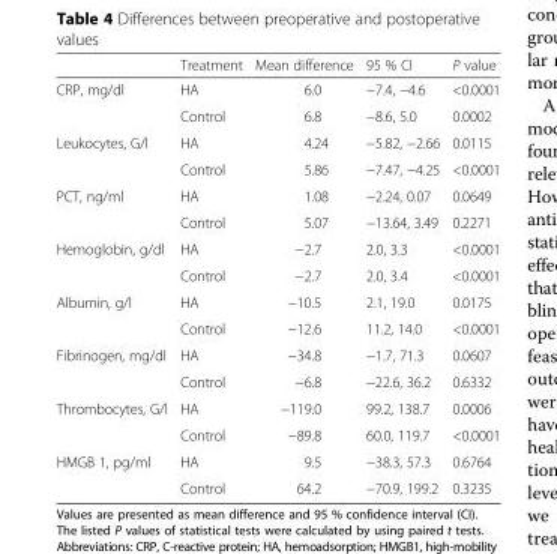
<table><thead><tr><td></td><td>Treatment</td><td>Mean difference</td><td>95 % CI</td><td>P value</td></tr></thead><tbody><tr><td rowspan="2">CRP, mg/dl</td><td>HA</td><td>6.0</td><td>−7.4, −4.6</td><td>&lt;0.0001</td></tr><tr><td>Control</td><td>6.8</td><td>−8.6, 5.0</td><td>0.0002</td></tr><tr><td rowspan="2">Leukocytes, G/l</td><td>HA</td><td>4.24</td><td>−5.82, −2.66</td><td>0.0115</td></tr><tr><td>Control</td><td>5.86</td><td>−7.47, −4.25</td><td>&lt;0.0001</td></tr><tr><td rowspan="2">PCT, ng/ml</td><td>HA</td><td>1.08</td><td>−2.24, 0.07</td><td>0.0649</td></tr><tr><td>Control</td><td>5.07</td><td>−13.64, 3.49</td><td>0.2271</td></tr><tr><td rowspan="2">Hemoglobin, g/dl</td><td>HA</td><td>−2.7</td><td>2.0, 3.3</td><td>&lt;0.0001</td></tr><tr><td>Control</td><td>−2.7</td><td>2.0, 3.4</td><td>&lt;0.0001</td></tr><tr><td rowspan="2">Albumin, g/l</td><td>HA</td><td>−10.5</td><td>2.1, 19.0</td><td>0.0175</td></tr><tr><td>Control</td><td>−12.6</td><td>11.2, 14.0</td><td>&lt;0.0001</td></tr><tr><td rowspan="2">Fibrinogen, mg/dl</td><td>HA</td><td>−34.8</td><td>−1.7, 71.3</td><td>0.0607</td></tr><tr><td>Control</td><td>−6.8</td><td>−22.6, 36.2</td><td>0.6332</td></tr><tr><td rowspan="2">Thrombocytes, G/l</td><td>HA</td><td>−119.0</td><td>99.2, 138.7</td><td>0.0006</td></tr><tr><td>Control</td><td>−89.8</td><td>60.0, 119.7</td><td>&lt;0.0001</td></tr><tr><td rowspan="2">HMGB 1, pg/ml</td><td>HA</td><td>9.5</td><td>−38.3, 57.3</td><td>0.6764</td></tr><tr><td>Control</td><td>64.2</td><td>−70.9, 199.2</td><td>0.3235</td></tr></tbody></table>